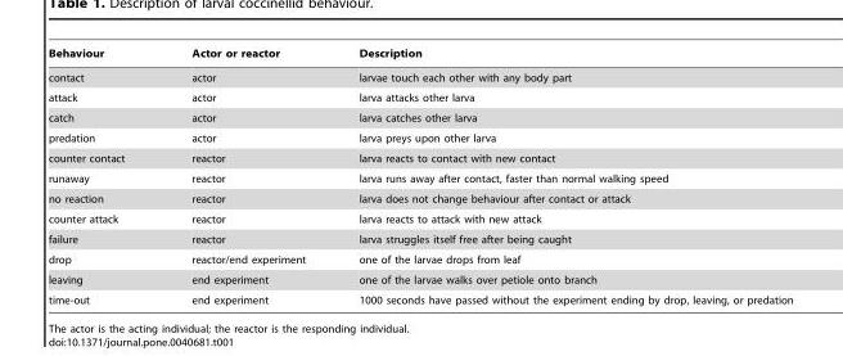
<table><thead><tr><td>Behaviour</td><td>Actor or reactor</td><td>Description</td></tr></thead><tbody><tr><td>contact</td><td>actor</td><td>larvae touch each other with any body part</td></tr><tr><td>attack</td><td>actor</td><td>larva attacks other larva</td></tr><tr><td>catch</td><td>actor</td><td>larva catches other larva</td></tr><tr><td>predation</td><td>actor</td><td>larva preys upon other larva</td></tr><tr><td>counter contact</td><td>reactor</td><td>larva reacts to contact with new contact</td></tr><tr><td>runaway</td><td>reactor</td><td>larva runs away after contact, faster than normal walking speed</td></tr><tr><td>no reaction</td><td>reactor</td><td>larva does not change behaviour after contact or attack</td></tr><tr><td>counter attack</td><td>reactor</td><td>larva reacts to attack with new attack</td></tr><tr><td>failure</td><td>reactor</td><td>larva struggles itself free after being caught</td></tr><tr><td>drop</td><td>reactor/end experiment</td><td>one of the larvae drops from leaf</td></tr><tr><td>leaving</td><td>end experiment</td><td>one of the larvae walks over petiole onto branch</td></tr><tr><td>time-out</td><td>end experiment</td><td>1000 seconds have passed without the experiment ending by drop, leaving, or predation</td></tr></tbody></table>